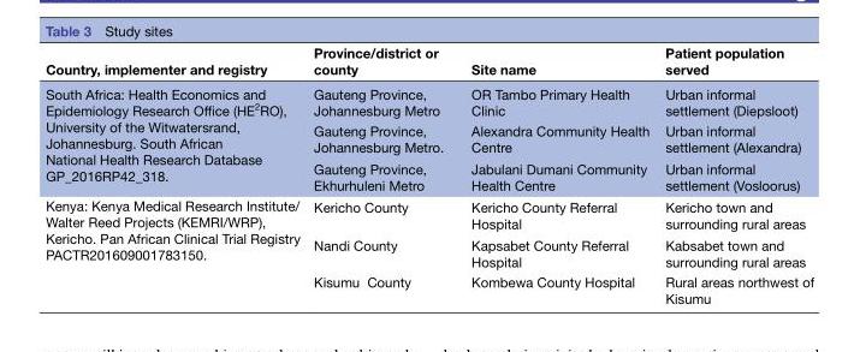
<table><thead><tr><td>Country, implementer and registry</td><td>Province/district or county</td><td>Site name</td><td>Patient population served</td></tr></thead><tbody><tr><td rowspan="3">South Africa: Health Economics and Epidemiology Research Office (HE<sup>2</sup>RO), University of the Witwatersrand, Johannesburg. South African National Health Research Database GP_2016RP42_318.</td><td>Gauteng Province, Johannesburg Metro</td><td>OR Tambo Primary Health Clinic</td><td>Urban informal settlement (Diepsloot)</td></tr><tr><td>Gauteng Province, Johannesburg Metro.</td><td>Alexandra Community Health Centre</td><td>Urban informal settlement (Alexandra)</td></tr><tr><td>Gauteng Province, Ekhurhuleni Metro</td><td>Jabulani Dumani Community Health Centre</td><td>Urban informal settlement (Vosloorus)</td></tr><tr><td rowspan="3">Kenya: Kenya Medical Research Institute/ Walter Reed Projects (KEMRI/WRP), Kericho. Pan African Clinical Trial Registry PACTR201609001783150.</td><td>Kericho County</td><td>Kericho County Referral Hospital</td><td>Kericho town and surrounding rural areas</td></tr><tr><td>Nandi County</td><td>Kapsabet County Referral Hospital</td><td>Kabsabet town and surrounding rural areas</td></tr><tr><td>Kisumu County</td><td>Kombewa County Hospital</td><td>Rural areas northwest of Kisumu</td></tr></tbody></table>